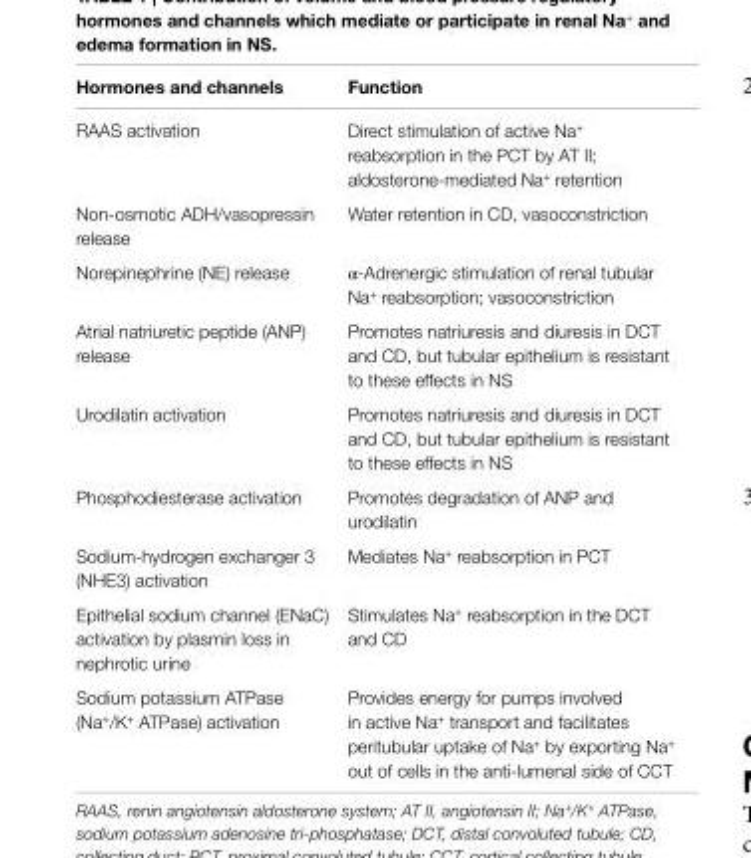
<table><thead><tr><td>Hormones and channels</td><td>Function</td></tr></thead><tbody><tr><td>RAAS activation</td><td>Direct stimulation of active Na<sup>+</sup> reabsorption in the PCT by AT II; aldosterone-mediated Na<sup>+</sup> retention</td></tr><tr><td>Non-osmotic ADH/vasopressin release</td><td>Water retention in CD, vasoconstriction</td></tr><tr><td>Norepinephrine (NE) release</td><td>α-Adrenergic stimulation of renal tubular Na<sup>+</sup> reabsorption; vasoconstriction</td></tr><tr><td>Atrial natriuretic peptide (ANP) release</td><td>Promotes natriuresis and diuresis in DCT and CD, but tubular epithelium is resistant to these effects in NS</td></tr><tr><td>Urodilatin activation</td><td>Promotes natriuresis and diuresis in DCT and CD, but tubular epithelium is resistant to these effects in NS</td></tr><tr><td>Phosphodiesterase activation</td><td>Promotes degradation of ANP and urodilatin</td></tr><tr><td>Sodium-hydrogen exchanger 3 (NHE3) activation</td><td>Mediates Na<sup>+</sup> reabsorption in PCT</td></tr><tr><td>Epithelial sodium channel (ENaC) activation by plasmin loss in nephrotic urine</td><td>Stimulates Na<sup>+</sup> reabsorption in the DCT and CD</td></tr><tr><td>Sodium potassium ATPase (Na<sup>+</sup>/K<sup>+</sup> ATPase) activation</td><td>Provides energy for pumps involved in active Na<sup>+</sup> transport and facilitates peritubular uptake of Na<sup>+</sup> by exporting Na<sup>+</sup> out of cells in the anti-lumenal side of CCT</td></tr></tbody></table>